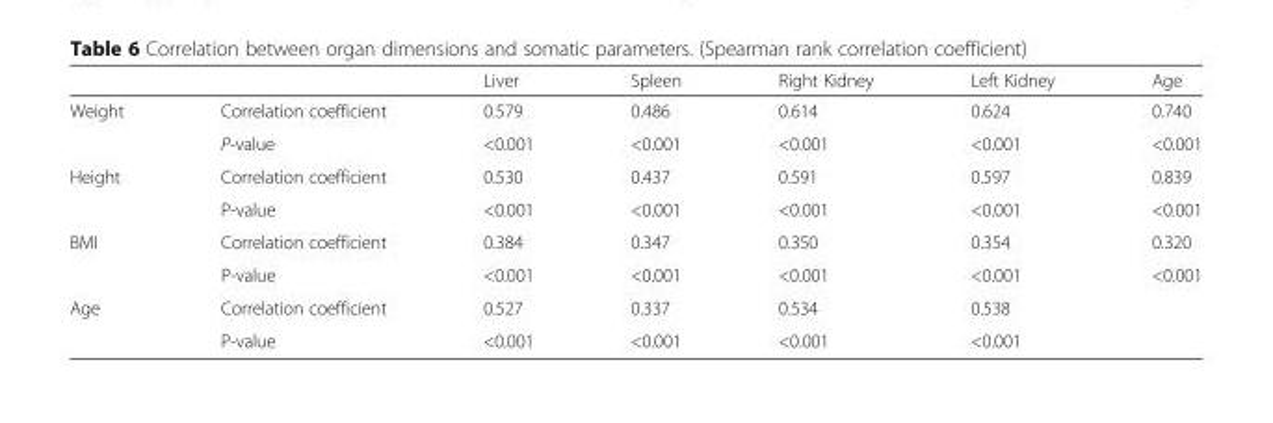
<table><thead><tr><td></td><td></td><td>Liver</td><td>Spleen</td><td>Right Kidney</td><td>Left Kidney</td><td>Age</td></tr></thead><tbody><tr><td rowspan="2">Weight</td><td>Correlation coefficient</td><td>0.579</td><td>0.486</td><td>0.614</td><td>0.624</td><td>0.740</td></tr><tr><td>P-value</td><td>&lt;0.001</td><td>&lt;0.001</td><td>&lt;0.001</td><td>&lt;0.001</td><td>&lt;0.001</td></tr><tr><td rowspan="2">Height</td><td>Correlation coefficient</td><td>0.530</td><td>0.437</td><td>0.591</td><td>0.597</td><td>0.839</td></tr><tr><td>P-value</td><td>&lt;0.001</td><td>&lt;0.001</td><td>&lt;0.001</td><td>&lt;0.001</td><td>&lt;0.001</td></tr><tr><td rowspan="2">BMI</td><td>Correlation coefficient</td><td>0.384</td><td>0.347</td><td>0.350</td><td>0.354</td><td>0.320</td></tr><tr><td>P-value</td><td>&lt;0.001</td><td>&lt;0.001</td><td>&lt;0.001</td><td>&lt;0.001</td><td>&lt;0.001</td></tr><tr><td rowspan="2">Age</td><td>Correlation coefficient</td><td>0.527</td><td>0.337</td><td>0.534</td><td>0.538</td><td></td></tr><tr><td>P-value</td><td>&lt;0.001</td><td>&lt;0.001</td><td>&lt;0.001</td><td>&lt;0.001</td><td></td></tr></tbody></table>